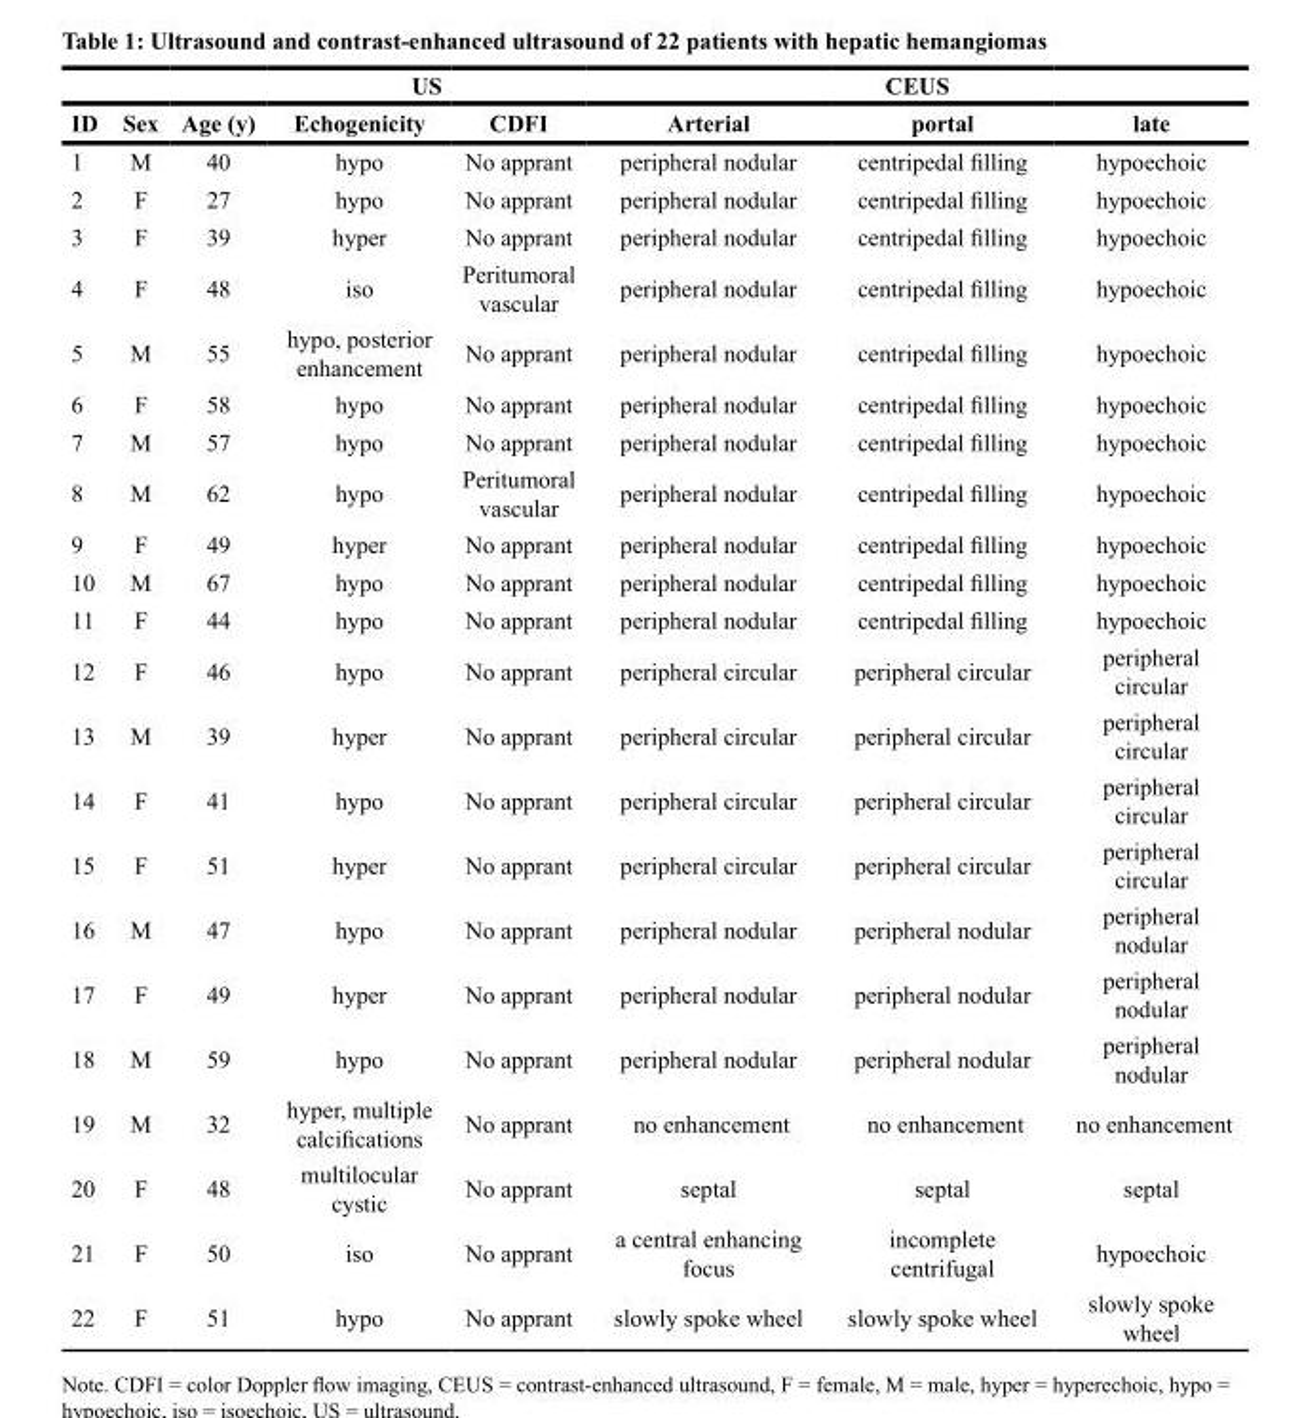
<table><thead><tr><td colspan="5">US</td><td colspan="3">CEUS</td></tr><tr><td>ID</td><td>Sex</td><td>Age (y)</td><td>Echogenicity</td><td>CDFI</td><td>Arterial</td><td>portal</td><td>late</td></tr></thead><tbody><tr><td>1</td><td>M</td><td>40</td><td>hypo</td><td>No apprant</td><td>peripheral nodular</td><td>centripedal filling</td><td>hypoechoic</td></tr><tr><td>2</td><td>F</td><td>27</td><td>hypo</td><td>No apprant</td><td>peripheral nodular</td><td>centripedal filling</td><td>hypoechoic</td></tr><tr><td>3</td><td>F</td><td>39</td><td>hyper</td><td>No apprant</td><td>peripheral nodular</td><td>centripedal filling</td><td>hypoechoic</td></tr><tr><td>4</td><td>F</td><td>48</td><td>iso</td><td>Peritumoral vascular</td><td>peripheral nodular</td><td>centripedal filling</td><td>hypoechoic</td></tr><tr><td>5</td><td>M</td><td>55</td><td>hypo, posterior enhancement</td><td>No apprant</td><td>peripheral nodular</td><td>centripedal filling</td><td>hypoechoic</td></tr><tr><td>6</td><td>F</td><td>58</td><td>hypo</td><td>No apprant</td><td>peripheral nodular</td><td>centripedal filling</td><td>hypoechoic</td></tr><tr><td>7</td><td>M</td><td>57</td><td>hypo</td><td>No apprant</td><td>peripheral nodular</td><td>centripedal filling</td><td>hypoechoic</td></tr><tr><td>8</td><td>M</td><td>62</td><td>hypo</td><td>Peritumoral vascular</td><td>peripheral nodular</td><td>centripedal filling</td><td>hypoechoic</td></tr><tr><td>9</td><td>F</td><td>49</td><td>hyper</td><td>No apprant</td><td>peripheral nodular</td><td>centripedal filling</td><td>hypoechoic</td></tr><tr><td>10</td><td>M</td><td>67</td><td>hypo</td><td>No apprant</td><td>peripheral nodular</td><td>centripedal filling</td><td>hypoechoic</td></tr><tr><td>11</td><td>F</td><td>44</td><td>hypo</td><td>No apprant</td><td>peripheral nodular</td><td>centripedal filling</td><td>hypoechoic</td></tr><tr><td>12</td><td>F</td><td>46</td><td>hypo</td><td>No apprant</td><td>peripheral circular</td><td>peripheral circular</td><td>peripheral circular</td></tr><tr><td>13</td><td>M</td><td>39</td><td>hyper</td><td>No apprant</td><td>peripheral circular</td><td>peripheral circular</td><td>peripheral circular</td></tr><tr><td>14</td><td>F</td><td>41</td><td>hypo</td><td>No apprant</td><td>peripheral circular</td><td>peripheral circular</td><td>peripheral circular</td></tr><tr><td>15</td><td>F</td><td>51</td><td>hyper</td><td>No apprant</td><td>peripheral circular</td><td>peripheral circular</td><td>peripheral circular</td></tr><tr><td>16</td><td>M</td><td>47</td><td>hypo</td><td>No apprant</td><td>peripheral nodular</td><td>peripheral nodular</td><td>peripheral nodular</td></tr><tr><td>17</td><td>F</td><td>49</td><td>hyper</td><td>No apprant</td><td>peripheral nodular</td><td>peripheral nodular</td><td>peripheral nodular</td></tr><tr><td>18</td><td>M</td><td>59</td><td>hypo</td><td>No apprant</td><td>peripheral nodular</td><td>peripheral nodular</td><td>peripheral nodular</td></tr><tr><td>19</td><td>M</td><td>32</td><td>hyper, multiple calcifications</td><td>No apprant</td><td>no enhancement</td><td>no enhancement</td><td>no enhancement</td></tr><tr><td>20</td><td>F</td><td>48</td><td>multilocular cystic</td><td>No apprant</td><td>septal</td><td>septal</td><td>septal</td></tr><tr><td>21</td><td>F</td><td>50</td><td>iso</td><td>No apprant</td><td>a central enhancing focus</td><td>incomplete centrifugal</td><td>hypoechoic</td></tr><tr><td>22</td><td>F</td><td>51</td><td>hypo</td><td>No apprant</td><td>slowly spoke wheel</td><td>slowly spoke wheel</td><td>slowly spoke wheel</td></tr></tbody></table>